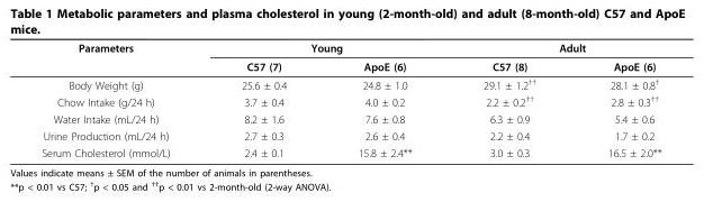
<table><thead><tr><td rowspan="2">Parameters</td><td colspan="2">Young</td><td colspan="2">Adult</td></tr><tr><td>C57 (7)</td><td>ApoE (6)</td><td>C57 (8)</td><td>ApoE (6)</td></tr></thead><tbody><tr><td>Body Weight (g)</td><td>25.6 ± 0.4</td><td>24.8 ± 1.0</td><td>29.1 ± 1.2<sup>††</sup></td><td>28.1 ± 0.8<sup>†</sup></td></tr><tr><td>Chow Intake (g/24 h)</td><td>3.7 ± 0.4</td><td>4.0 ± 0.2</td><td>2.2 ± 0.2<sup>††</sup></td><td>2.8 ± 0.3<sup>††</sup></td></tr><tr><td>Water Intake (mL/24 h)</td><td>8.2 ± 1.6</td><td>7.6 ± 0.8</td><td>6.3 ± 0.9</td><td>5.4 ± 0.6</td></tr><tr><td>Urine Production (mL/24 h)</td><td>2.7 ± 0.3</td><td>2.6 ± 0.4</td><td>2.2 ± 0.4</td><td>1.7 ± 0.2</td></tr><tr><td>Serum Cholesterol (mmol/L)</td><td>2.4 ± 0.1</td><td>15.8 ± 2.4**</td><td>3.0 ± 0.3</td><td>16.5 ± 2.0**</td></tr></tbody></table>